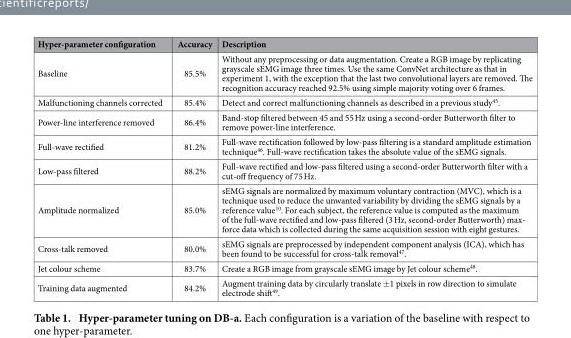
<table><thead><tr><td>Hyper-parameter configuration</td><td>Accuracy</td><td>Description</td></tr></thead><tbody><tr><td>Baseline</td><td>85.5%</td><td>Without any preprocessing or data augmentation. Create a RGB image by replicating grayscale sEMG image three times. Use the same ConvNet architecture as that in experiment 1, with the exception that the last two convolutional layers are removed. The recognition accuracy reached 92.5% using simple majority voting over 6 frames.</td></tr><tr><td>Malfunctioning channels corrected</td><td>85.4%</td><td>Detect and correct malfunctioning channels as described in a previous study<sup>45</sup>.</td></tr><tr><td>Power-line interference removed</td><td>86.4%</td><td>Band-stop filtered between 45 and 55 Hz using a second-order Butterworth filter to remove power-line interference.</td></tr><tr><td>Full-wave rectified</td><td>81.2%</td><td>Full-wave rectification followed by low-pass filtering is a standard amplitude estimation technique<sup>46</sup>. Full-wave rectification takes the absolute value of the sEMG signals.</td></tr><tr><td>Low-pass filtered</td><td>88.2%</td><td>Full-wave rectified and low-pass filtered using a second-order Butterworth filter with a cut-off frequency of 75 Hz.</td></tr><tr><td>Amplitude normalized</td><td>85.0%</td><td>sEMG signals are normalized by maximum voluntary contraction (MVC), which is a technique used to reduce the unwanted variability by dividing the sEMG signals by a reference value<sup>10</sup>. For each subject, the reference value is computed as the maximum of the full-wave rectified and low-pass filtered (3 Hz, second-order Butterworth) max- force data which is collected during the same acquisition session with eight gestures.</td></tr><tr><td>Cross-talk removed</td><td>80.0%</td><td>sEMG signals are preprocessed by independent component analysis (ICA), which has been found to be successful for cross-talk removal<sup>47</sup>.</td></tr><tr><td>Jet colour scheme</td><td>83.7%</td><td>Create a RGB image from grayscale sEMG image by Jet colour scheme<sup>48</sup>.</td></tr><tr><td>Training data augmented</td><td>84.2%</td><td>Augment training data by circularly translate ± 1 pixels in row direction to simulate electrode shift<sup>49</sup>.</td></tr></tbody></table>